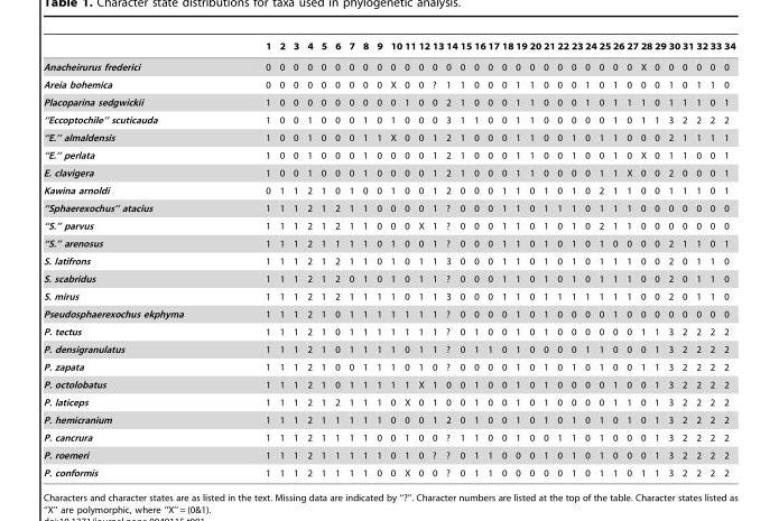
<table><thead><tr><td></td><td>1</td><td>2</td><td>3</td><td>4</td><td>5</td><td>6</td><td>7</td><td>8</td><td>9</td><td>10</td><td>11</td><td>12</td><td>13</td><td>14</td><td>15</td><td>16</td><td>17</td><td>18</td><td>19</td><td>20</td><td>21</td><td>22</td><td>23</td><td>24</td><td>25</td><td>26</td><td>27</td><td>28</td><td>29</td><td>30</td><td>31</td><td>32</td><td>33</td><td>34</td></tr></thead><tbody><tr><td>Anacheirurus frederici</td><td>0</td><td>0</td><td>0</td><td>0</td><td>0</td><td>0</td><td>0</td><td>0</td><td>0</td><td>0</td><td>0</td><td>0</td><td>0</td><td>0</td><td>0</td><td>0</td><td>0</td><td>0</td><td>0</td><td>0</td><td>0</td><td>0</td><td>0</td><td>0</td><td>0</td><td>0</td><td>0</td><td>X</td><td>0</td><td>0</td><td>0</td><td>0</td><td>0</td><td>0</td></tr><tr><td>Areia bohemica</td><td>0</td><td>0</td><td>0</td><td>0</td><td>0</td><td>0</td><td>0</td><td>0</td><td>0</td><td>X</td><td>0</td><td>0</td><td>?</td><td>1</td><td>1</td><td>0</td><td>0</td><td>0</td><td>1</td><td>1</td><td>0</td><td>0</td><td>0</td><td>1</td><td>0</td><td>1</td><td>0</td><td>0</td><td>0</td><td>1</td><td>0</td><td>1</td><td>1</td><td>0</td></tr><tr><td>Placoparina sedgwickii</td><td>1</td><td>0</td><td>0</td><td>0</td><td>0</td><td>0</td><td>0</td><td>0</td><td>0</td><td>0</td><td>1</td><td>0</td><td>0</td><td>2</td><td>1</td><td>0</td><td>0</td><td>0</td><td>1</td><td>1</td><td>0</td><td>0</td><td>0</td><td>1</td><td>0</td><td>1</td><td>1</td><td>1</td><td>0</td><td>1</td><td>1</td><td>1</td><td>0</td><td>1</td></tr><tr><td>‘‘Eccoptochile’’ scuticauda</td><td>1</td><td>0</td><td>0</td><td>1</td><td>0</td><td>0</td><td>0</td><td>1</td><td>0</td><td>1</td><td>0</td><td>0</td><td>0</td><td>3</td><td>1</td><td>1</td><td>0</td><td>0</td><td>1</td><td>1</td><td>0</td><td>0</td><td>0</td><td>0</td><td>0</td><td>1</td><td>0</td><td>1</td><td>1</td><td>3</td><td>2</td><td>2</td><td>2</td><td>2</td></tr><tr><td>‘‘E.’’ almaldensis</td><td>1</td><td>0</td><td>0</td><td>1</td><td>0</td><td>0</td><td>0</td><td>1</td><td>1</td><td>X</td><td>0</td><td>0</td><td>1</td><td>2</td><td>1</td><td>0</td><td>0</td><td>0</td><td>1</td><td>1</td><td>0</td><td>0</td><td>1</td><td>0</td><td>1</td><td>1</td><td>0</td><td>0</td><td>0</td><td>2</td><td>1</td><td>1</td><td>1</td><td>1</td></tr><tr><td>‘‘E.’’ perlata</td><td>1</td><td>0</td><td>0</td><td>1</td><td>0</td><td>0</td><td>0</td><td>1</td><td>0</td><td>0</td><td>0</td><td>0</td><td>1</td><td>2</td><td>1</td><td>0</td><td>0</td><td>0</td><td>1</td><td>1</td><td>0</td><td>0</td><td>1</td><td>0</td><td>0</td><td>1</td><td>0</td><td>X</td><td>0</td><td>1</td><td>1</td><td>0</td><td>0</td><td>1</td></tr><tr><td>E. clavigera</td><td>1</td><td>0</td><td>0</td><td>1</td><td>0</td><td>0</td><td>0</td><td>1</td><td>0</td><td>0</td><td>0</td><td>0</td><td>1</td><td>2</td><td>1</td><td>0</td><td>0</td><td>0</td><td>1</td><td>1</td><td>0</td><td>0</td><td>0</td><td>0</td><td>1</td><td>1</td><td>X</td><td>0</td><td>0</td><td>2</td><td>0</td><td>0</td><td>0</td><td>1</td></tr><tr><td>Kawina arnoldi</td><td>0</td><td>1</td><td>1</td><td>2</td><td>1</td><td>0</td><td>1</td><td>0</td><td>0</td><td>1</td><td>0</td><td>0</td><td>1</td><td>2</td><td>0</td><td>0</td><td>0</td><td>1</td><td>1</td><td>0</td><td>1</td><td>0</td><td>1</td><td>0</td><td>2</td><td>1</td><td>1</td><td>0</td><td>0</td><td>1</td><td>1</td><td>1</td><td>0</td><td>1</td></tr><tr><td>‘‘Sphaerexochus’’ atacius</td><td>1</td><td>1</td><td>1</td><td>2</td><td>1</td><td>2</td><td>1</td><td>1</td><td>0</td><td>0</td><td>0</td><td>0</td><td>1</td><td>?</td><td>0</td><td>0</td><td>0</td><td>1</td><td>1</td><td>0</td><td>1</td><td>1</td><td>1</td><td>0</td><td>1</td><td>1</td><td>1</td><td>0</td><td>0</td><td>0</td><td>0</td><td>0</td><td>0</td><td>0</td></tr><tr><td>‘‘S.’’ parvus</td><td>1</td><td>1</td><td>1</td><td>2</td><td>1</td><td>2</td><td>1</td><td>1</td><td>0</td><td>0</td><td>0</td><td>X</td><td>1</td><td>?</td><td>0</td><td>0</td><td>0</td><td>1</td><td>1</td><td>0</td><td>1</td><td>0</td><td>1</td><td>0</td><td>2</td><td>1</td><td>1</td><td>0</td><td>0</td><td>0</td><td>0</td><td>0</td><td>0</td><td>0</td></tr><tr><td>‘‘S.’’ arenosus</td><td>1</td><td>1</td><td>1</td><td>2</td><td>1</td><td>1</td><td>1</td><td>1</td><td>0</td><td>1</td><td>0</td><td>0</td><td>1</td><td>?</td><td>0</td><td>0</td><td>0</td><td>1</td><td>1</td><td>0</td><td>1</td><td>0</td><td>1</td><td>0</td><td>1</td><td>0</td><td>0</td><td>0</td><td>0</td><td>2</td><td>1</td><td>1</td><td>0</td><td>1</td></tr><tr><td>S. latifrons</td><td>1</td><td>1</td><td>1</td><td>2</td><td>1</td><td>2</td><td>1</td><td>1</td><td>0</td><td>1</td><td>0</td><td>1</td><td>1</td><td>3</td><td>0</td><td>0</td><td>0</td><td>1</td><td>1</td><td>0</td><td>1</td><td>0</td><td>1</td><td>0</td><td>1</td><td>1</td><td>1</td><td>0</td><td>0</td><td>2</td><td>0</td><td>1</td><td>1</td><td>0</td></tr><tr><td>S. scabridus</td><td>1</td><td>1</td><td>1</td><td>2</td><td>1</td><td>2</td><td>0</td><td>1</td><td>0</td><td>1</td><td>0</td><td>1</td><td>1</td><td>?</td><td>0</td><td>0</td><td>0</td><td>1</td><td>1</td><td>0</td><td>1</td><td>0</td><td>1</td><td>0</td><td>1</td><td>1</td><td>1</td><td>0</td><td>0</td><td>2</td><td>0</td><td>1</td><td>1</td><td>0</td></tr><tr><td>S. mirus</td><td>1</td><td>1</td><td>1</td><td>2</td><td>1</td><td>2</td><td>1</td><td>1</td><td>1</td><td>1</td><td>0</td><td>1</td><td>1</td><td>3</td><td>0</td><td>0</td><td>0</td><td>1</td><td>1</td><td>0</td><td>1</td><td>1</td><td>1</td><td>1</td><td>1</td><td>1</td><td>1</td><td>0</td><td>0</td><td>2</td><td>0</td><td>1</td><td>1</td><td>0</td></tr><tr><td>Pseudosphaerexochus ekphyma</td><td>1</td><td>1</td><td>1</td><td>2</td><td>1</td><td>0</td><td>1</td><td>1</td><td>1</td><td>1</td><td>1</td><td>1</td><td>1</td><td>?</td><td>0</td><td>0</td><td>0</td><td>0</td><td>1</td><td>0</td><td>1</td><td>0</td><td>0</td><td>0</td><td>0</td><td>1</td><td>0</td><td>0</td><td>0</td><td>0</td><td>0</td><td>0</td><td>0</td><td>0</td></tr><tr><td>P. tectus</td><td>1</td><td>1</td><td>1</td><td>2</td><td>1</td><td>0</td><td>1</td><td>1</td><td>1</td><td>1</td><td>1</td><td>1</td><td>1</td><td>?</td><td>0</td><td>1</td><td>0</td><td>0</td><td>1</td><td>0</td><td>1</td><td>0</td><td>0</td><td>0</td><td>0</td><td>0</td><td>0</td><td>1</td><td>1</td><td>3</td><td>2</td><td>2</td><td>2</td><td>2</td></tr><tr><td>P. densigranulatus</td><td>1</td><td>1</td><td>1</td><td>2</td><td>1</td><td>0</td><td>1</td><td>1</td><td>1</td><td>1</td><td>0</td><td>1</td><td>1</td><td>?</td><td>0</td><td>1</td><td>1</td><td>0</td><td>1</td><td>0</td><td>0</td><td>0</td><td>0</td><td>1</td><td>1</td><td>0</td><td>0</td><td>0</td><td>1</td><td>3</td><td>2</td><td>2</td><td>2</td><td>2</td></tr><tr><td>P. zapata</td><td>1</td><td>1</td><td>1</td><td>2</td><td>1</td><td>0</td><td>0</td><td>1</td><td>1</td><td>1</td><td>0</td><td>1</td><td>0</td><td>?</td><td>0</td><td>0</td><td>0</td><td>0</td><td>1</td><td>0</td><td>1</td><td>0</td><td>1</td><td>0</td><td>1</td><td>0</td><td>0</td><td>1</td><td>1</td><td>3</td><td>2</td><td>2</td><td>2</td><td>2</td></tr><tr><td>P. octolobatus</td><td>1</td><td>1</td><td>1</td><td>2</td><td>1</td><td>0</td><td>1</td><td>1</td><td>1</td><td>1</td><td>1</td><td>X</td><td>1</td><td>0</td><td>0</td><td>1</td><td>0</td><td>0</td><td>1</td><td>0</td><td>1</td><td>0</td><td>0</td><td>0</td><td>0</td><td>1</td><td>0</td><td>0</td><td>1</td><td>3</td><td>2</td><td>2</td><td>2</td><td>2</td></tr><tr><td>P. laticeps</td><td>1</td><td>1</td><td>1</td><td>2</td><td>1</td><td>2</td><td>1</td><td>1</td><td>1</td><td>0</td><td>X</td><td>0</td><td>1</td><td>0</td><td>0</td><td>1</td><td>0</td><td>0</td><td>1</td><td>0</td><td>1</td><td>0</td><td>0</td><td>0</td><td>0</td><td>1</td><td>1</td><td>0</td><td>1</td><td>3</td><td>2</td><td>2</td><td>2</td><td>2</td></tr><tr><td>P. hemicranium</td><td>1</td><td>1</td><td>1</td><td>2</td><td>1</td><td>1</td><td>1</td><td>1</td><td>1</td><td>0</td><td>0</td><td>0</td><td>1</td><td>2</td><td>0</td><td>1</td><td>0</td><td>0</td><td>1</td><td>0</td><td>1</td><td>0</td><td>1</td><td>0</td><td>1</td><td>0</td><td>1</td><td>0</td><td>1</td><td>3</td><td>2</td><td>2</td><td>2</td><td>2</td></tr><tr><td>P. cancrura</td><td>1</td><td>1</td><td>1</td><td>2</td><td>1</td><td>1</td><td>1</td><td>1</td><td>0</td><td>0</td><td>1</td><td>0</td><td>0</td><td>?</td><td>1</td><td>1</td><td>0</td><td>0</td><td>1</td><td>0</td><td>0</td><td>1</td><td>1</td><td>0</td><td>1</td><td>0</td><td>0</td><td>0</td><td>1</td><td>3</td><td>2</td><td>2</td><td>2</td><td>2</td></tr><tr><td>P. roemeri</td><td>1</td><td>1</td><td>1</td><td>2</td><td>1</td><td>1</td><td>1</td><td>1</td><td>1</td><td>0</td><td>1</td><td>0</td><td>?</td><td>?</td><td>0</td><td>1</td><td>1</td><td>0</td><td>0</td><td>0</td><td>1</td><td>0</td><td>1</td><td>0</td><td>1</td><td>0</td><td>0</td><td>0</td><td>1</td><td>3</td><td>2</td><td>2</td><td>2</td><td>2</td></tr><tr><td>P. conformis</td><td>1</td><td>1</td><td>1</td><td>2</td><td>1</td><td>1</td><td>1</td><td>1</td><td>0</td><td>0</td><td>X</td><td>0</td><td>0</td><td>?</td><td>0</td><td>1</td><td>1</td><td>0</td><td>0</td><td>0</td><td>0</td><td>0</td><td>1</td><td>0</td><td>1</td><td>1</td><td>0</td><td>1</td><td>1</td><td>3</td><td>2</td><td>2</td><td>2</td><td>2</td></tr></tbody></table>